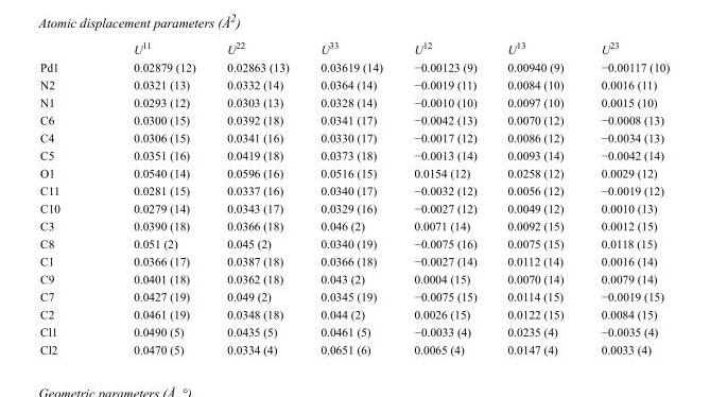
<table><thead><tr><td></td><td>U<sup>11</sup></td><td>U<sup>22</sup></td><td>U<sup>33</sup></td><td>U<sup>12</sup></td><td>U<sup>13</sup></td><td>U<sup>23</sup></td></tr></thead><tbody><tr><td>Pd1</td><td>0.02879 (12)</td><td>0.02863 (13)</td><td>0.03619 (14)</td><td>−0.00123 (9)</td><td>0.00940 (9)</td><td>−0.00117 (10)</td></tr><tr><td>N2</td><td>0.0321 (13)</td><td>0.0332 (14)</td><td>0.0364 (14)</td><td>−0.0019 (11)</td><td>0.0084 (10)</td><td>0.0016 (11)</td></tr><tr><td>N1</td><td>0.0293 (12)</td><td>0.0303 (13)</td><td>0.0328 (14)</td><td>−0.0010 (10)</td><td>0.0097 (10)</td><td>0.0015 (10)</td></tr><tr><td>C6</td><td>0.0300 (15)</td><td>0.0392 (18)</td><td>0.0341 (17)</td><td>−0.0042 (13)</td><td>0.0070 (12)</td><td>−0.0008 (13)</td></tr><tr><td>C4</td><td>0.0306 (15)</td><td>0.0341 (16)</td><td>0.0330 (17)</td><td>−0.0017 (12)</td><td>0.0086 (12)</td><td>−0.0034 (13)</td></tr><tr><td>C5</td><td>0.0351 (16)</td><td>0.0419 (18)</td><td>0.0373 (18)</td><td>−0.0013 (14)</td><td>0.0093 (14)</td><td>−0.0042 (14)</td></tr><tr><td>O1</td><td>0.0540 (14)</td><td>0.0596 (16)</td><td>0.0516 (15)</td><td>0.0154 (12)</td><td>0.0258 (12)</td><td>0.0029 (12)</td></tr><tr><td>C11</td><td>0.0281 (15)</td><td>0.0337 (16)</td><td>0.0340 (17)</td><td>−0.0032 (12)</td><td>0.0056 (12)</td><td>−0.0019 (12)</td></tr><tr><td>C10</td><td>0.0279 (14)</td><td>0.0343 (17)</td><td>0.0329 (16)</td><td>−0.0027 (12)</td><td>0.0049 (12)</td><td>0.0010 (13)</td></tr><tr><td>C3</td><td>0.0390 (18)</td><td>0.0366 (18)</td><td>0.046 (2)</td><td>0.0071 (14)</td><td>0.0092 (15)</td><td>0.0012 (15)</td></tr><tr><td>C8</td><td>0.051 (2)</td><td>0.045 (2)</td><td>0.0340 (19)</td><td>−0.0075 (16)</td><td>0.0075 (15)</td><td>0.0118 (15)</td></tr><tr><td>C1</td><td>0.0366 (17)</td><td>0.0387 (18)</td><td>0.0366 (18)</td><td>−0.0027 (14)</td><td>0.0112 (14)</td><td>0.0016 (14)</td></tr><tr><td>C9</td><td>0.0401 (18)</td><td>0.0362 (18)</td><td>0.043 (2)</td><td>0.0004 (15)</td><td>0.0070 (14)</td><td>0.0079 (14)</td></tr><tr><td>C7</td><td>0.0427 (19)</td><td>0.049 (2)</td><td>0.0345 (19)</td><td>−0.0075 (15)</td><td>0.0114 (15)</td><td>−0.0019 (15)</td></tr><tr><td>C2</td><td>0.0461 (19)</td><td>0.0348 (18)</td><td>0.044 (2)</td><td>0.0026 (15)</td><td>0.0122 (15)</td><td>0.0084 (15)</td></tr><tr><td>Cl1</td><td>0.0490 (5)</td><td>0.0435 (5)</td><td>0.0461 (5)</td><td>−0.0033 (4)</td><td>0.0235 (4)</td><td>−0.0035 (4)</td></tr><tr><td>Cl2</td><td>0.0470 (5)</td><td>0.0334 (4)</td><td>0.0651 (6)</td><td>0.0065 (4)</td><td>0.0147 (4)</td><td>0.0033 (4)</td></tr></tbody></table>